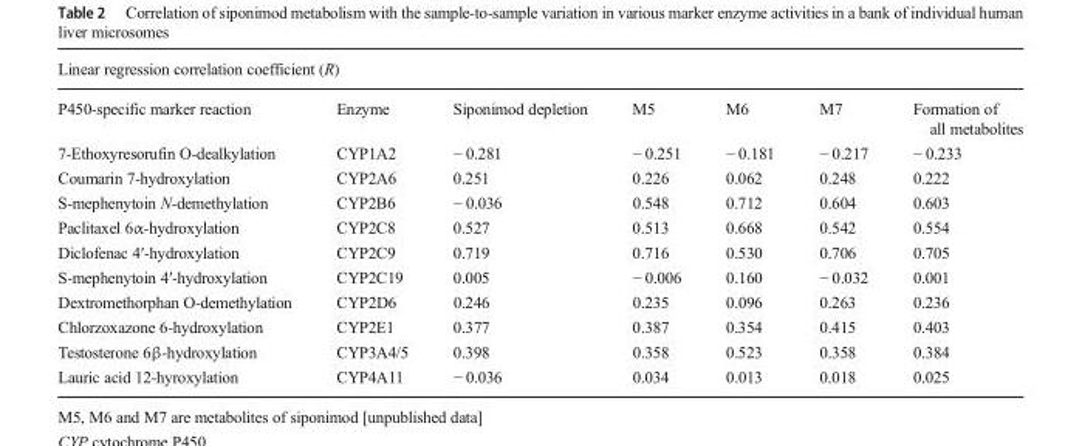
<table><thead><tr><td colspan="7">Linear regression correlation coefficient (R)</td></tr><tr><td>P450-specific marker reaction</td><td>Enzyme</td><td>Siponimod depletion</td><td>M5</td><td>M6</td><td>M7</td><td>Formation of all metabolites</td></tr></thead><tbody><tr><td>7-Ethoxyresorufin O-dealkylation</td><td>CYP1A2</td><td>− 0.281</td><td>− 0.251</td><td>− 0.181</td><td>− 0.217</td><td>− 0.233</td></tr><tr><td>Coumarin 7-hydroxylation</td><td>CYP2A6</td><td>0.251</td><td>0.226</td><td>0.062</td><td>0.248</td><td>0.222</td></tr><tr><td>S-mephenytoin N-demethylation</td><td>CYP2B6</td><td>− 0.036</td><td>0.548</td><td>0.712</td><td>0.604</td><td>0.603</td></tr><tr><td>Paclitaxel 6α-hydroxylation</td><td>CYP2C8</td><td>0.527</td><td>0.513</td><td>0.668</td><td>0.542</td><td>0.554</td></tr><tr><td>Diclofenac 4′-hydroxylation</td><td>CYP2C9</td><td>0.719</td><td>0.716</td><td>0.530</td><td>0.706</td><td>0.705</td></tr><tr><td>S-mephenytoin 4′-hydroxylation</td><td>CYP2C19</td><td>0.005</td><td>− 0.006</td><td>0.160</td><td>− 0.032</td><td>0.001</td></tr><tr><td>Dextromethorphan O-demethylation</td><td>CYP2D6</td><td>0.246</td><td>0.235</td><td>0.096</td><td>0.263</td><td>0.236</td></tr><tr><td>Chlorzoxazone 6-hydroxylation</td><td>CYP2E1</td><td>0.377</td><td>0.387</td><td>0.354</td><td>0.415</td><td>0.403</td></tr><tr><td>Testosterone 6β-hydroxylation</td><td>CYP3A4/5</td><td>0.398</td><td>0.358</td><td>0.523</td><td>0.358</td><td>0.384</td></tr><tr><td>Lauric acid 12-hyroxylation</td><td>CYP4A11</td><td>− 0.036</td><td>0.034</td><td>0.013</td><td>0.018</td><td>0.025</td></tr></tbody></table>